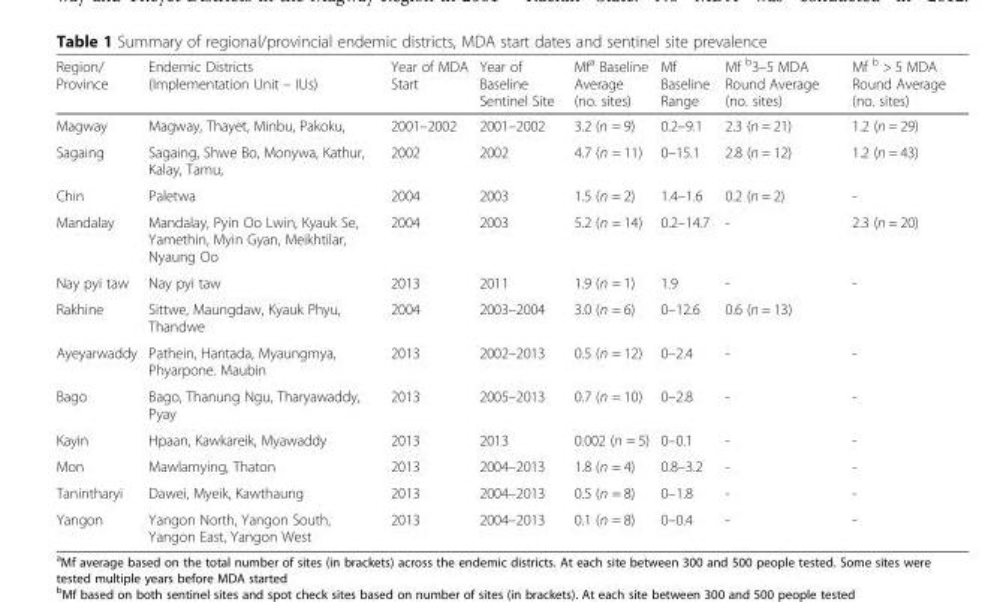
<table><thead><tr><td>Region/ Province</td><td>Endemic Districts (Implementation Unit – IUs)</td><td>Year of MDA Start</td><td>Year of Baseline Sentinel Site</td><td>Mf<sup>a</sup> Baseline Average (no. sites)</td><td>Mf Baseline Range</td><td>Mf <sup>b</sup>3–5 MDA Round Average (no. sites)</td><td>Mf <sup>b</sup> &gt; 5 MDA Round Average (no. sites)</td></tr></thead><tbody><tr><td>Magway</td><td>Magway, Thayet, Minbu, Pakoku,</td><td>2001–2002</td><td>2001–2002</td><td>3.2 (n = 9)</td><td>0.2–9.1</td><td>2.3 (n = 21)</td><td>1.2 (n = 29)</td></tr><tr><td>Sagaing</td><td>Sagaing, Shwe Bo, Monywa, Kathur, Kalay, Tamu,</td><td>2002</td><td>2002</td><td>4.7 (n = 11)</td><td>0–15.1</td><td>2.8 (n = 12)</td><td>1.2 (n = 43)</td></tr><tr><td>Chin</td><td>Paletwa</td><td>2004</td><td>2003</td><td>1.5 (n = 2)</td><td>1.4–1.6</td><td>0.2 (n = 2)</td><td>-</td></tr><tr><td>Mandalay</td><td>Mandalay, Pyin Oo Lwin, Kyauk Se, Yamethin, Myin Gyan, Meikhtilar, Nyaung Oo</td><td>2004</td><td>2003</td><td>5.2 (n = 14)</td><td>0.2–14.7</td><td>-</td><td>2.3 (n = 20)</td></tr><tr><td>Nay pyi taw</td><td>Nay pyi taw</td><td>2013</td><td>2011</td><td>1.9 (n = 1)</td><td>1.9</td><td>-</td><td>-</td></tr><tr><td>Rakhine</td><td>Sittwe, Maungdaw, Kyauk Phyu, Thandwe</td><td>2004</td><td>2003–2004</td><td>3.0 (n = 6)</td><td>0–12.6</td><td>0.6 (n = 13)</td><td></td></tr><tr><td>Ayeyarwaddy</td><td>Pathein, Hantada, Myaungmya, Phyarpone. Maubin</td><td>2013</td><td>2002–2013</td><td>0.5 (n = 12)</td><td>0–2.4</td><td>-</td><td>-</td></tr><tr><td>Bago</td><td>Bago, Thanung Ngu, Tharyawaddy, Pyay</td><td>2013</td><td>2005–2013</td><td>0.7 (n = 10)</td><td>0–2.8</td><td>-</td><td>-</td></tr><tr><td>Kayin</td><td>Hpaan, Kawkareik, Myawaddy</td><td>2013</td><td>2013</td><td>0.002 (n = 5)</td><td>0–0.1</td><td>-</td><td>-</td></tr><tr><td>Mon</td><td>Mawlamying, Thaton</td><td>2013</td><td>2004–2013</td><td>1.8 (n = 4)</td><td>0.8–3.2</td><td>-</td><td>-</td></tr><tr><td>Tanintharyi</td><td>Dawei, Myeik, Kawthaung</td><td>2013</td><td>2004–2013</td><td>0.5 (n = 8)</td><td>0–1.8</td><td>-</td><td>-</td></tr><tr><td>Yangon</td><td>Yangon North, Yangon South, Yangon East, Yangon West</td><td>2013</td><td>2004–2013</td><td>0.1 (n = 8)</td><td>0–0.4</td><td>-</td><td>-</td></tr></tbody></table>